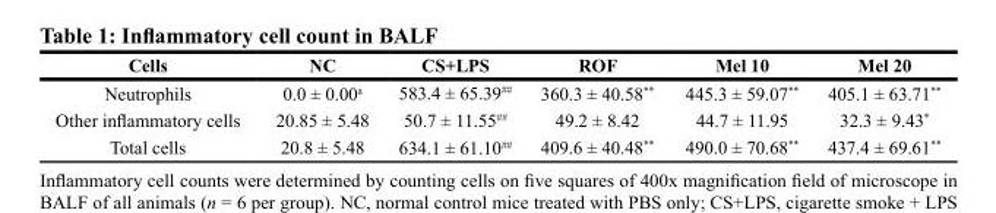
<table><thead><tr><td>Cells</td><td>NC</td><td>CS+LPS</td><td>ROF</td><td>Mel 10</td><td>Mel 20</td></tr></thead><tbody><tr><td>Neutrophils</td><td>0.0 ± 0.00<sup>a</sup></td><td>583.4 ± 65.39<sup>##</sup></td><td>360.3 ± 40.58**</td><td>445.3 ± 59.07**</td><td>405.1 ± 63.71**</td></tr><tr><td>Other inflammatory cells</td><td>20.85 ± 5.48</td><td>50.7 ± 11.55<sup>##</sup></td><td>49.2 ± 8.42</td><td>44.7 ± 11.95</td><td>32.3 ± 9.43*</td></tr><tr><td>Total cells</td><td>20.8 ± 5.48</td><td>634.1 ± 61.10<sup>##</sup></td><td>409.6 ± 40.48**</td><td>490.0 ± 70.68**</td><td>437.4 ± 69.61**</td></tr></tbody></table>